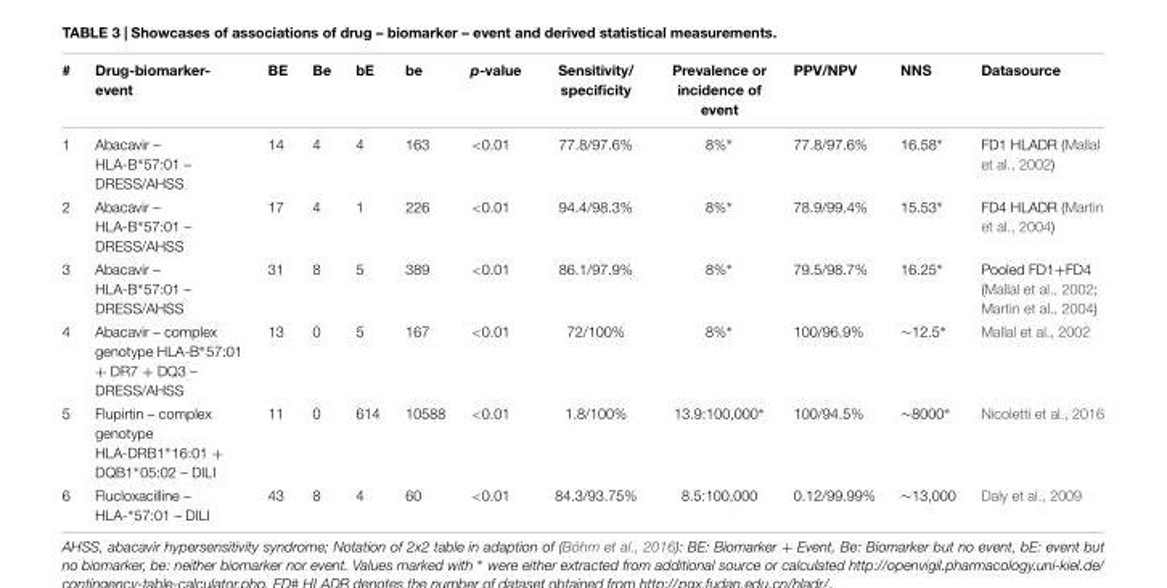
<table><thead><tr><td>#</td><td>Drug-biomarker- event</td><td>BE</td><td>Be</td><td>bE</td><td>be</td><td>p-value</td><td>Sensitivity/ specificity</td><td>Prevalence or incidence of event</td><td>PPV/NPV</td><td>NNS</td><td>Datasource</td></tr></thead><tbody><tr><td>1</td><td>Abacavir – HLA-B∗57:01 – DRESS/AHSS</td><td>14</td><td>4</td><td>4</td><td>163</td><td>&lt;0.01</td><td>77.8/97.6%</td><td>8%∗</td><td>77.8/97.6%</td><td>16.58∗</td><td>FD1 HLADR (Mallal et al., 2002)</td></tr><tr><td>2</td><td>Abacavir – HLA-B∗57:01 – DRESS/AHSS</td><td>17</td><td>4</td><td>1</td><td>226</td><td>&lt;0.01</td><td>94.4/98.3%</td><td>8%∗</td><td>78.9/99.4%</td><td>15.53∗</td><td>FD4 HLADR (Martin et al., 2004)</td></tr><tr><td>3</td><td>Abacavir – HLA-B∗57:01 – DRESS/AHSS</td><td>31</td><td>8</td><td>5</td><td>389</td><td>&lt;0.01</td><td>86.1/97.9%</td><td>8%∗</td><td>79.5/98.7%</td><td>16.25∗</td><td>Pooled FD1+FD4 (Mallal et al., 2002; Martin et al., 2004)</td></tr><tr><td>4</td><td>Abacavir – complex genotype HLA-B∗57:01 + DR7 + DQ3 – DRESS/AHSS</td><td>13</td><td>0</td><td>5</td><td>167</td><td>&lt;0.01</td><td>72/100%</td><td>8%∗</td><td>100/96.9%</td><td>∼12.5∗</td><td>Mallal et al., 2002</td></tr><tr><td>5</td><td>Flupirtin – complex genotype HLA-DRB1∗16:01 + DQB1∗05:02 – DILI</td><td>11</td><td>0</td><td>614</td><td>10588</td><td>&lt;0.01</td><td>1.8/100%</td><td>13.9:100,000∗</td><td>100/94.5%</td><td>∼8000∗</td><td>Nicoletti et al., 2016</td></tr><tr><td>6</td><td>Flucloxacilline – HLA-∗57:01 – DILI</td><td>43</td><td>8</td><td>4</td><td>60</td><td>&lt;0.01</td><td>84.3/93.75%</td><td>8.5:100,000</td><td>0.12/99.99%</td><td>∼13,000</td><td>Daly et al., 2009</td></tr></tbody></table>